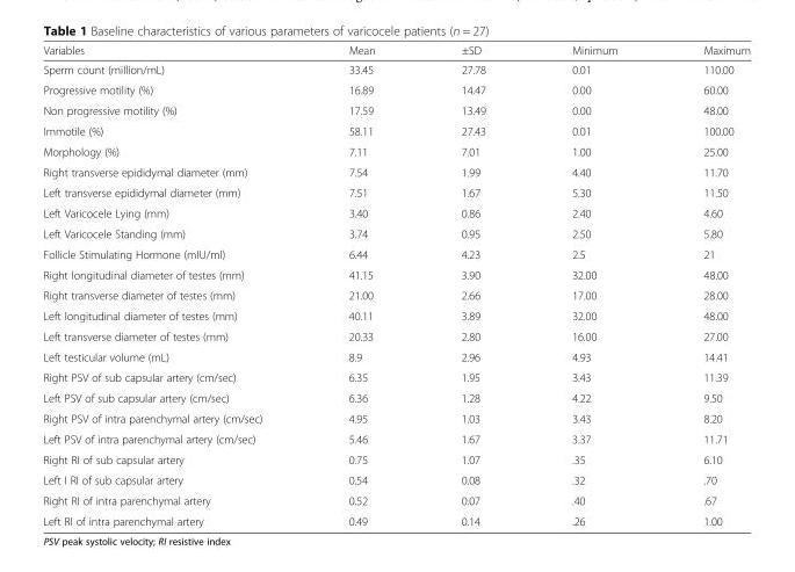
<table><thead><tr><td>Variables</td><td>Mean</td><td>±SD</td><td>Minimum</td><td>Maximum</td></tr></thead><tbody><tr><td>Sperm count (million/mL)</td><td>33.45</td><td>27.78</td><td>0.01</td><td>110.00</td></tr><tr><td>Progressive motility (%)</td><td>16.89</td><td>14.47</td><td>0.00</td><td>60.00</td></tr><tr><td>Non progressive motility (%)</td><td>17.59</td><td>13.49</td><td>0.00</td><td>48.00</td></tr><tr><td>Immotile (%)</td><td>58.11</td><td>27.43</td><td>0.01</td><td>100.00</td></tr><tr><td>Morphology (%)</td><td>7.11</td><td>7.01</td><td>1.00</td><td>25.00</td></tr><tr><td>Right transverse epididymal diameter (mm)</td><td>7.54</td><td>1.99</td><td>4.40</td><td>11.70</td></tr><tr><td>Left transverse epididymal diameter (mm)</td><td>7.51</td><td>1.67</td><td>5.30</td><td>11.50</td></tr><tr><td>Left Varicocele Lying (mm)</td><td>3.40</td><td>0.86</td><td>2.40</td><td>4.60</td></tr><tr><td>Left Varicocele Standing (mm)</td><td>3.74</td><td>0.95</td><td>2.50</td><td>5.80</td></tr><tr><td>Follicle Stimulating Hormone (mIU/ml)</td><td>6.44</td><td>4.23</td><td>2.5</td><td>21</td></tr><tr><td>Right longitudinal diameter of testes (mm)</td><td>41.15</td><td>3.90</td><td>32.00</td><td>48.00</td></tr><tr><td>Right transverse diameter of testes (mm)</td><td>21.00</td><td>2.66</td><td>17.00</td><td>28.00</td></tr><tr><td>Left longitudinal diameter of testes (mm)</td><td>40.11</td><td>3.89</td><td>32.00</td><td>48.00</td></tr><tr><td>Left transverse diameter of testes (mm)</td><td>20.33</td><td>2.80</td><td>16.00</td><td>27.00</td></tr><tr><td>Left testicular volume (mL)</td><td>8.9</td><td>2.96</td><td>4.93</td><td>14.41</td></tr><tr><td>Right PSV of sub capsular artery (cm/sec)</td><td>6.35</td><td>1.95</td><td>3.43</td><td>11.39</td></tr><tr><td>Left PSV of sub capsular artery (cm/sec)</td><td>6.36</td><td>1.28</td><td>4.22</td><td>9.50</td></tr><tr><td>Right PSV of intra parenchymal artery (cm/sec)</td><td>4.95</td><td>1.03</td><td>3.43</td><td>8.20</td></tr><tr><td>Left PSV of intra parenchymal artery (cm/sec)</td><td>5.46</td><td>1.67</td><td>3.37</td><td>11.71</td></tr><tr><td>Right RI of sub capsular artery</td><td>0.75</td><td>1.07</td><td>.35</td><td>6.10</td></tr><tr><td>Left I RI of sub capsular artery</td><td>0.54</td><td>0.08</td><td>.32</td><td>.70</td></tr><tr><td>Right RI of intra parenchymal artery</td><td>0.52</td><td>0.07</td><td>.40</td><td>.67</td></tr><tr><td>Left RI of intra parenchymal artery</td><td>0.49</td><td>0.14</td><td>.26</td><td>1.00</td></tr></tbody></table>